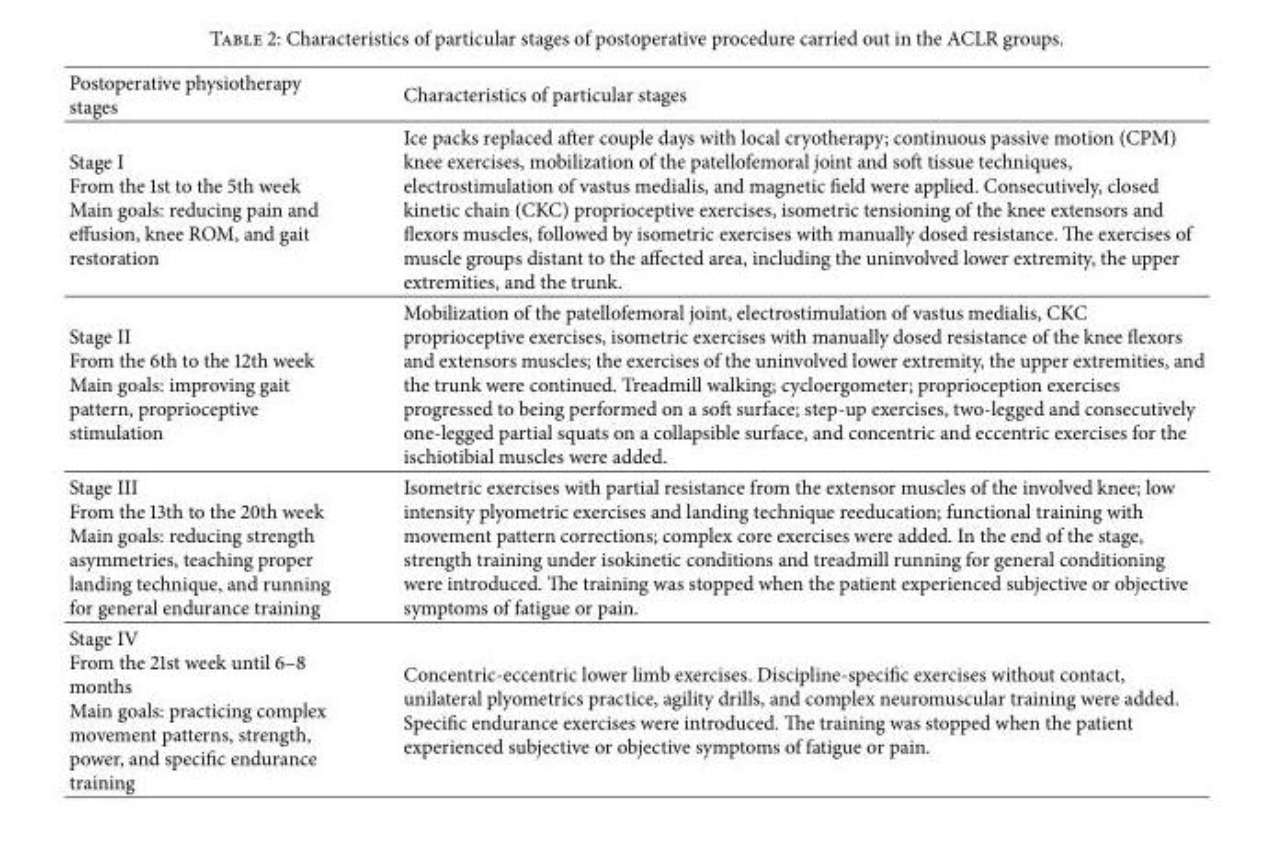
<table><thead><tr><td>Postoperative physiotherapy stages</td><td>Characteristics of particular stages</td></tr></thead><tbody><tr><td>Stage I From the 1st to the 5th week Main goals: reducing pain and effusion, knee ROM, and gait restoration</td><td>Ice packs replaced after couple days with local cryotherapy; continuous passive motion (CPM) knee exercises, mobilization of the patellofemoral joint and soft tissue techniques, electrostimulation of vastus medialis, and magnetic field were applied. Consecutively, closed kinetic chain (CKC) proprioceptive exercises, isometric tensioning of the knee extensors and flexors muscles, followed by isometric exercises with manually dosed resistance. The exercises of muscle groups distant to the affected area, including the uninvolved lower extremity, the upper extremities, and the trunk.</td></tr><tr><td>Stage II From the 6th to the 12th week Main goals: improving gait pattern, proprioceptive stimulation</td><td>Mobilization of the patellofemoral joint, electrostimulation of vastus medialis, CKC proprioceptive exercises, isometric exercises with manually dosed resistance of the knee flexors and extensors muscles; the exercises of the uninvolved lower extremity, the upper extremities, and the trunk were continued. Treadmill walking; cycloergometer; proprioception exercises progressed to being performed on a soft surface; step-up exercises, two-legged and consecutively one-legged partial squats on a collapsible surface, and concentric and eccentric exercises for the ischiotibial muscles were added.</td></tr><tr><td>Stage III From the 13th to the 20th week Main goals: reducing strength asymmetries, teaching proper landing technique, and running for general endurance training</td><td>Isometric exercises with partial resistance from the extensor muscles of the involved knee; low intensity plyometric exercises and landing technique reeducation; functional training with movement pattern corrections; complex core exercises were added. In the end of the stage, strength training under isokinetic conditions and treadmill running for general conditioning were introduced. The training was stopped when the patient experienced subjective or objective symptoms of fatigue or pain.</td></tr><tr><td>Stage IV From the 21st week until 6–8 months Main goals: practicing complex movement patterns, strength, power, and specific endurance training</td><td>Concentric-eccentric lower limb exercises. Discipline-specific exercises without contact, unilateral plyometrics practice, agility drills, and complex neuromuscular training were added. Specific endurance exercises were introduced. The training was stopped when the patient experienced subjective or objective symptoms of fatigue or pain.</td></tr></tbody></table>